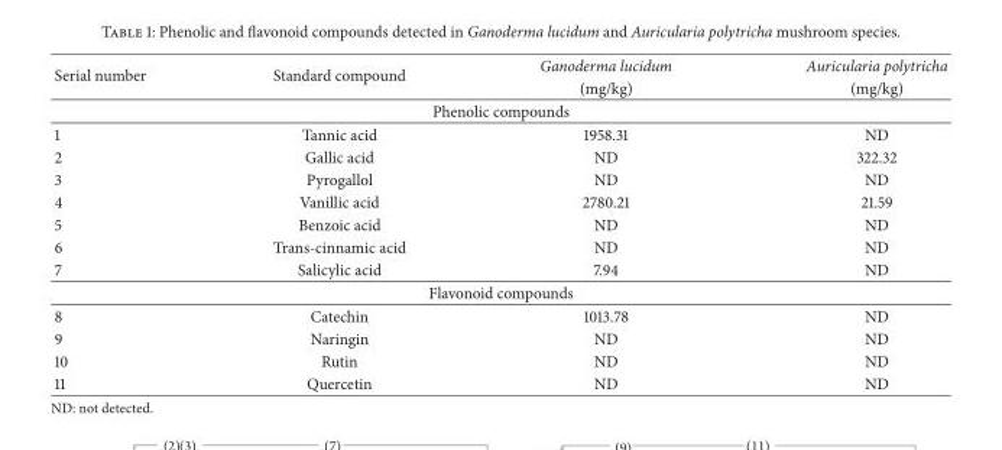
<table><thead><tr><td rowspan="2">Serial number</td><td rowspan="2">Standard compound</td><td rowspan="2">Ganoderma lucidum (mg/kg)</td><td rowspan="2">Auricularia polytricha (mg/kg)</td></tr><tr></tr></thead><tbody><tr><td colspan="4">Phenolic compounds</td></tr><tr><td>1</td><td>Tannic acid</td><td>1958.31</td><td>ND</td></tr><tr><td>2</td><td>Gallic acid</td><td>ND</td><td>322.32</td></tr><tr><td>3</td><td>Pyrogallol</td><td>ND</td><td>ND</td></tr><tr><td>4</td><td>Vanillic acid</td><td>2780.21</td><td>21.59</td></tr><tr><td>5</td><td>Benzoic acid</td><td>ND</td><td>ND</td></tr><tr><td>6</td><td>Trans-cinnamic acid</td><td>ND</td><td>ND</td></tr><tr><td>7</td><td>Salicylic acid</td><td>7.94</td><td>ND</td></tr><tr><td colspan="4">Flavonoid compounds</td></tr><tr><td>8</td><td>Catechin</td><td>1013.78</td><td>ND</td></tr><tr><td>9</td><td>Naringin</td><td>ND</td><td>ND</td></tr><tr><td>10</td><td>Rutin</td><td>ND</td><td>ND</td></tr><tr><td>11</td><td>Quercetin</td><td>ND</td><td>ND</td></tr></tbody></table>